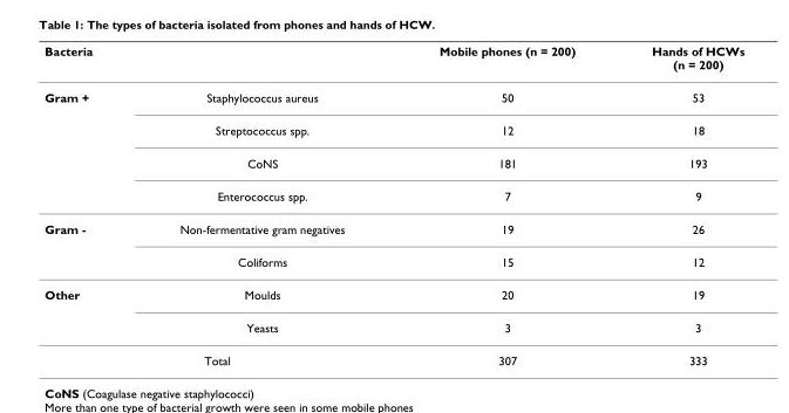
<table><thead><tr><td>Bacteria</td><td></td><td>Mobile phones (n = 200)</td><td>Hands of HCWs (n = 200)</td></tr></thead><tbody><tr><td rowspan="4">Gram +</td><td>Staphylococcus aureus</td><td>50</td><td>53</td></tr><tr><td>Streptococcus spp.</td><td>12</td><td>18</td></tr><tr><td>CoNS</td><td>181</td><td>193</td></tr><tr><td>Enterococcus spp.</td><td>7</td><td>9</td></tr><tr><td rowspan="2">Gram -</td><td>Non-fermentative gram negatives</td><td>19</td><td>26</td></tr><tr><td>Coliforms</td><td>15</td><td>12</td></tr><tr><td rowspan="2">Other</td><td>Moulds</td><td>20</td><td>19</td></tr><tr><td>Yeasts</td><td>3</td><td>3</td></tr><tr><td colspan="2">Total</td><td>307</td><td>333</td></tr></tbody></table>